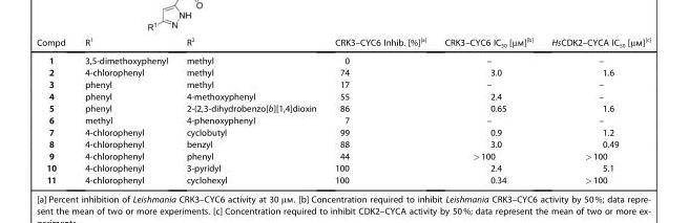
<table><thead><tr><td>Compd</td><td>R<sup>1</sup></td><td>R<sup>2</sup></td><td>CRK3–CYC6 Inhib. [%][a]</td><td>CRK3–CYC6 IC<sub>50</sub> [μm][b]</td><td>HsCDK2–CYCA IC<sub>50</sub> [μm][c]</td></tr></thead><tbody><tr><td>1</td><td>3,5-dimethoxyphenyl</td><td>methyl</td><td>0</td><td>–</td><td>–</td></tr><tr><td>2</td><td>4-chlorophenyl</td><td>methyl</td><td>74</td><td>3.0</td><td>1.6</td></tr><tr><td>3</td><td>phenyl</td><td>methyl</td><td>17</td><td>–</td><td>–</td></tr><tr><td>4</td><td>phenyl</td><td>4-methoxyphenyl</td><td>55</td><td>2.4</td><td>–</td></tr><tr><td>5</td><td>phenyl</td><td>2-(2,3-dihydrobenzo[b][1,4]dioxin</td><td>86</td><td>0.65</td><td>1.6</td></tr><tr><td>6</td><td>methyl</td><td>4-phenoxyphenyl</td><td>7</td><td>–</td><td>–</td></tr><tr><td>7</td><td>4-chlorophenyl</td><td>cyclobutyl</td><td>99</td><td>0.9</td><td>1.2</td></tr><tr><td>8</td><td>4-chlorophenyl</td><td>benzyl</td><td>88</td><td>3.0</td><td>0.49</td></tr><tr><td>9</td><td>4-chlorophenyl</td><td>phenyl</td><td>44</td><td>&gt;100</td><td>&gt;100</td></tr><tr><td>10</td><td>4-chlorophenyl</td><td>3-pyridyl</td><td>100</td><td>2.4</td><td>5.1</td></tr><tr><td>11</td><td>4-chlorophenyl</td><td>cyclohexyl</td><td>100</td><td>0.34</td><td>&gt;100</td></tr></tbody></table>